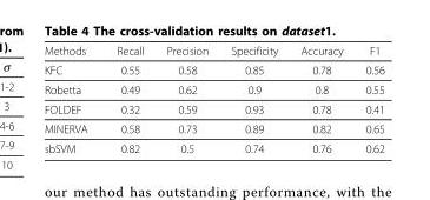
<table><thead><tr><td>Methods</td><td>Recall</td><td>Precision</td><td>Specificity</td><td>Accuracy</td><td>F1</td></tr></thead><tbody><tr><td>KFC</td><td>0.55</td><td>0.58</td><td>0.85</td><td>0.78</td><td>0.56</td></tr><tr><td>Robetta</td><td>0.49</td><td>0.62</td><td>0.9</td><td>0.8</td><td>0.55</td></tr><tr><td>FOLDEF</td><td>0.32</td><td>0.59</td><td>0.93</td><td>0.78</td><td>0.41</td></tr><tr><td>MINERVA</td><td>0.58</td><td>0.73</td><td>0.89</td><td>0.82</td><td>0.65</td></tr><tr><td>sbSVM</td><td>0.82</td><td>0.5</td><td>0.74</td><td>0.76</td><td>0.62</td></tr></tbody></table>